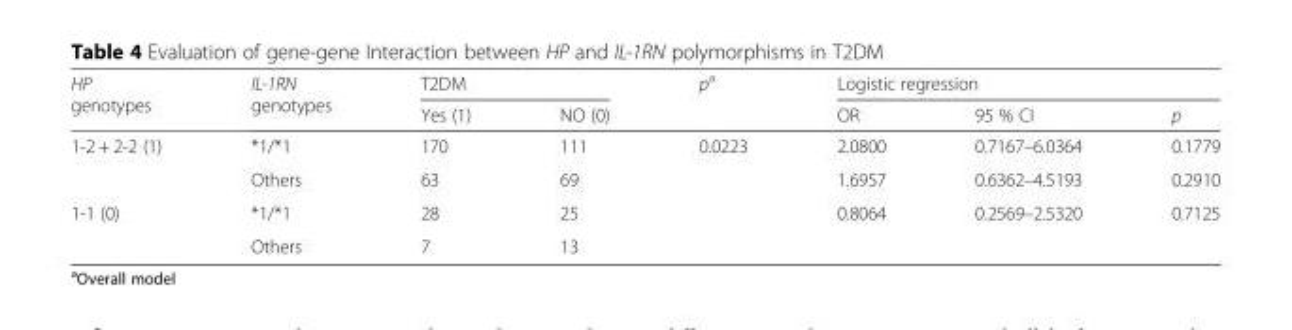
<table><thead><tr><td rowspan="2">HP genotypes</td><td rowspan="2">IL-1RN genotypes</td><td colspan="2">T2DM</td><td rowspan="2">p<sup>a</sup></td><td colspan="3">Logistic regression</td></tr><tr><td>Yes (1)</td><td>NO (0)</td><td>OR</td><td>95 % CI</td><td>p</td></tr></thead><tbody><tr><td rowspan="2">1-2 + 2-2 (1)</td><td>*1/*1</td><td>170</td><td>111</td><td rowspan="4">0.0223</td><td>2.0800</td><td>0.7167–6.0364</td><td>0.1779</td></tr><tr><td>Others</td><td>63</td><td>69</td><td>1.6957</td><td>0.6362–4.5193</td><td>0.2910</td></tr><tr><td rowspan="2">1-1 (0)</td><td>*1/*1</td><td>28</td><td>25</td><td rowspan="2">0.8064</td><td rowspan="2">0.2569–2.5320</td><td rowspan="2">0.7125</td></tr><tr><td>Others</td><td>7</td><td>13</td></tr></tbody></table>